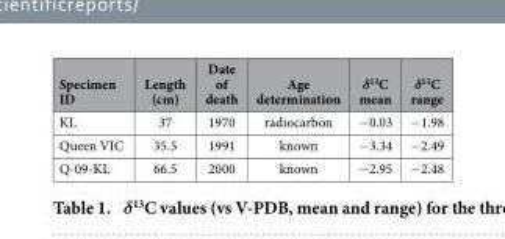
<table><thead><tr><td>Specimen ID</td><td>Length (cm)</td><td>Date of death</td><td>Age determination</td><td>δ<sup>13</sup>C mean</td><td>δ<sup>13</sup>C range</td></tr></thead><tbody><tr><td>KL</td><td>37</td><td>1970</td><td>radiocarbon</td><td>− 0.03</td><td>− 1.98</td></tr><tr><td>Queen VIC</td><td>35.5</td><td>1991</td><td>known</td><td>− 3.34</td><td>− 2.49</td></tr><tr><td>Q-09-KL</td><td>66.5</td><td>2000</td><td>known</td><td>− 2.95</td><td>− 2.48</td></tr></tbody></table>